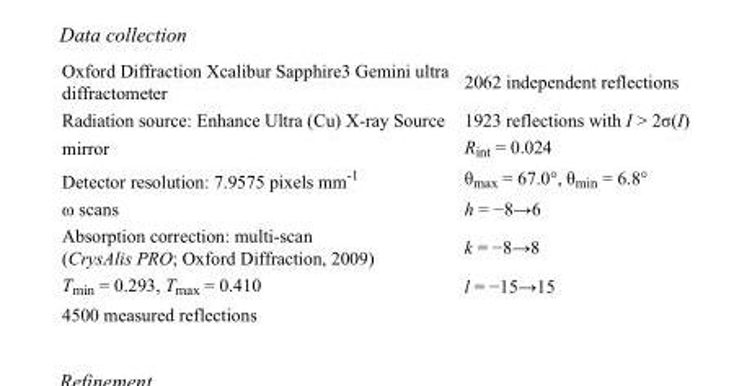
<table><tbody><tr><td>Oxford Diffraction Xcalibur Sapphire3 Gemini ultra diffractometer</td><td>2062 independent reflections</td></tr><tr><td>Radiation source: Enhance Ultra (Cu) X-ray Source</td><td>1923 reflections with I &gt; 2σ(I)</td></tr><tr><td>mirror</td><td>R<sub>int</sub> = 0.024</td></tr><tr><td>Detector resolution: 7.9575 pixels mm<sup>-1</sup></td><td>θ<sub>max</sub> = 67.0°, θ<sub>min</sub> = 6.8°</td></tr><tr><td>ω scans</td><td>h = −8→6</td></tr><tr><td>Absorption correction: multi-scan (CrysAlis PRO; Oxford Diffraction, 2009)</td><td>k = −8→8</td></tr><tr><td>T<sub>min</sub> = 0.293, T<sub>max</sub> = 0.410</td><td>l = −15→15</td></tr><tr><td>4500 measured reflections</td><td></td></tr></tbody></table>